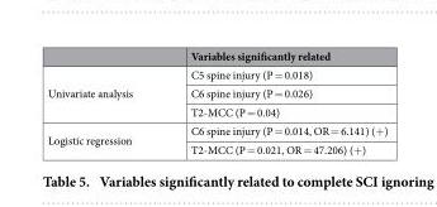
<table><thead><tr><td></td><td>Variables significantly related</td></tr></thead><tbody><tr><td rowspan="3">Univariate analysis</td><td>C5 spine injury (P = 0.018)</td></tr><tr><td>C6 spine injury (P = 0.026)</td></tr><tr><td>T2-MCC (P = 0.04)</td></tr><tr><td rowspan="2">Logistic regression</td><td>C6 spine injury (P = 0.014, OR = 6.141) (+ )</td></tr><tr><td>T2-MCC (P = 0.021, OR = 47.206) (+ )</td></tr></tbody></table>